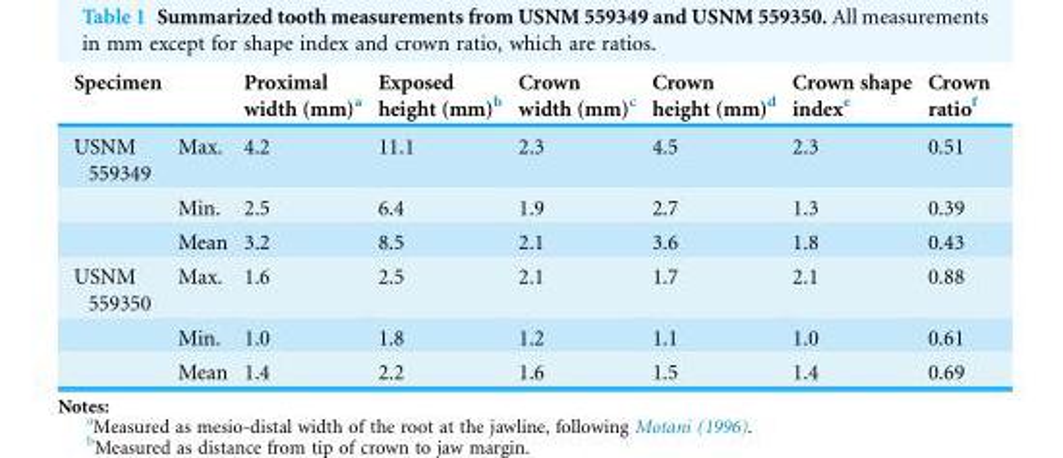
<table><thead><tr><td>Specimen</td><td></td><td>Proximal width (mm)<sup>a</sup></td><td>Exposed height (mm)<sup>b</sup></td><td>Crown width (mm)<sup>c</sup></td><td>Crown height (mm)<sup>d</sup></td><td>Crown shape index<sup>e</sup></td><td>Crown ratio<sup>f</sup></td></tr></thead><tbody><tr><td rowspan="3">USNM 559349</td><td>Max.</td><td>4.2</td><td>11.1</td><td>2.3</td><td>4.5</td><td>2.3</td><td>0.51</td></tr><tr><td>Min.</td><td>2.5</td><td>6.4</td><td>1.9</td><td>2.7</td><td>1.3</td><td>0.39</td></tr><tr><td>Mean</td><td>3.2</td><td>8.5</td><td>2.1</td><td>3.6</td><td>1.8</td><td>0.43</td></tr><tr><td rowspan="3">USNM 559350</td><td>Max.</td><td>1.6</td><td>2.5</td><td>2.1</td><td>1.7</td><td>2.1</td><td>0.88</td></tr><tr><td>Min.</td><td>1.0</td><td>1.8</td><td>1.2</td><td>1.1</td><td>1.0</td><td>0.61</td></tr><tr><td>Mean</td><td>1.4</td><td>2.2</td><td>1.6</td><td>1.5</td><td>1.4</td><td>0.69</td></tr></tbody></table>